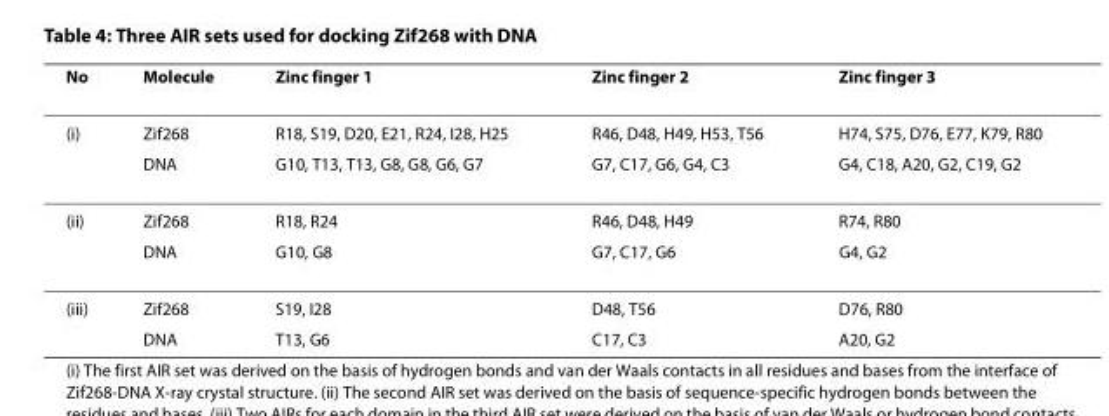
<table><thead><tr><td>No</td><td>Molecule</td><td>Zinc finger 1</td><td>Zinc finger 2</td><td>Zinc finger 3</td></tr></thead><tbody><tr><td rowspan="2">(i)</td><td>Zif268</td><td>R18, S19, D20, E21, R24, I28, H25</td><td>R46, D48, H49, H53, T56</td><td>H74, S75, D76, E77, K79, R80</td></tr><tr><td>DNA</td><td>G10, T13, T13, G8, G8, G6, G7</td><td>G7, C17, G6, G4, C3</td><td>G4, C18, A20, G2, C19, G2</td></tr><tr><td rowspan="2">(ii)</td><td>Zif268</td><td>R18, R24</td><td>R46, D48, H49</td><td>R74, R80</td></tr><tr><td>DNA</td><td>G10, G8</td><td>G7, C17, G6</td><td>G4, G2</td></tr><tr><td rowspan="2">(iii)</td><td>Zif268</td><td>S19, I28</td><td>D48, T56</td><td>D76, R80</td></tr><tr><td>DNA</td><td>T13, G6</td><td>C17, C3</td><td>A20, G2</td></tr></tbody></table>